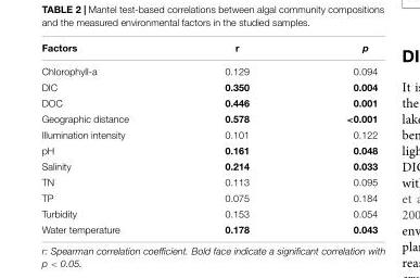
<table><thead><tr><td>Factors</td><td>r</td><td>p</td></tr></thead><tbody><tr><td>Chlorophyll-a</td><td>0.129</td><td>0.094</td></tr><tr><td>DIC</td><td>0.350</td><td>0.004</td></tr><tr><td>DOC</td><td>0.446</td><td>0.001</td></tr><tr><td>Geographic distance</td><td>0.578</td><td>&lt;0.001</td></tr><tr><td>Illumination intensity</td><td>0.101</td><td>0.122</td></tr><tr><td>pH</td><td>0.161</td><td>0.048</td></tr><tr><td>Salinity</td><td>0.214</td><td>0.033</td></tr><tr><td>TN</td><td>0.113</td><td>0.095</td></tr><tr><td>TP</td><td>0.075</td><td>0.184</td></tr><tr><td>Turbidity</td><td>0.153</td><td>0.054</td></tr><tr><td>Water temperature</td><td>0.178</td><td>0.043</td></tr></tbody></table>